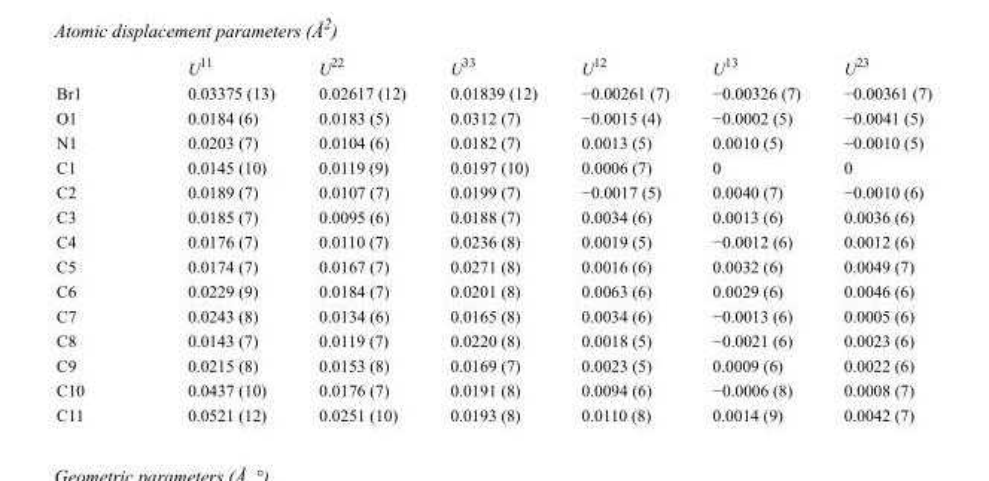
<table><thead><tr><td></td><td>U<sup>11</sup></td><td>U<sup>22</sup></td><td>U<sup>33</sup></td><td>U<sup>12</sup></td><td>U<sup>13</sup></td><td>U<sup>23</sup></td></tr></thead><tbody><tr><td>Br1</td><td>0.03375 (13)</td><td>0.02617 (12)</td><td>0.01839 (12)</td><td>−0.00261 (7)</td><td>−0.00326 (7)</td><td>−0.00361 (7)</td></tr><tr><td>O1</td><td>0.0184 (6)</td><td>0.0183 (5)</td><td>0.0312 (7)</td><td>−0.0015 (4)</td><td>−0.0002 (5)</td><td>−0.0041 (5)</td></tr><tr><td>N1</td><td>0.0203 (7)</td><td>0.0104 (6)</td><td>0.0182 (7)</td><td>0.0013 (5)</td><td>0.0010 (5)</td><td>−0.0010 (5)</td></tr><tr><td>C1</td><td>0.0145 (10)</td><td>0.0119 (9)</td><td>0.0197 (10)</td><td>0.0006 (7)</td><td>0</td><td>0</td></tr><tr><td>C2</td><td>0.0189 (7)</td><td>0.0107 (7)</td><td>0.0199 (7)</td><td>−0.0017 (5)</td><td>0.0040 (7)</td><td>−0.0010 (6)</td></tr><tr><td>C3</td><td>0.0185 (7)</td><td>0.0095 (6)</td><td>0.0188 (7)</td><td>0.0034 (6)</td><td>0.0013 (6)</td><td>0.0036 (6)</td></tr><tr><td>C4</td><td>0.0176 (7)</td><td>0.0110 (7)</td><td>0.0236 (8)</td><td>0.0019 (5)</td><td>−0.0012 (6)</td><td>0.0012 (6)</td></tr><tr><td>C5</td><td>0.0174 (7)</td><td>0.0167 (7)</td><td>0.0271 (8)</td><td>0.0016 (6)</td><td>0.0032 (6)</td><td>0.0049 (7)</td></tr><tr><td>C6</td><td>0.0229 (9)</td><td>0.0184 (7)</td><td>0.0201 (8)</td><td>0.0063 (6)</td><td>0.0029 (6)</td><td>0.0046 (6)</td></tr><tr><td>C7</td><td>0.0243 (8)</td><td>0.0134 (6)</td><td>0.0165 (8)</td><td>0.0034 (6)</td><td>−0.0013 (6)</td><td>0.0005 (6)</td></tr><tr><td>C8</td><td>0.0143 (7)</td><td>0.0119 (7)</td><td>0.0220 (8)</td><td>0.0018 (5)</td><td>−0.0021 (6)</td><td>0.0023 (6)</td></tr><tr><td>C9</td><td>0.0215 (8)</td><td>0.0153 (8)</td><td>0.0169 (7)</td><td>0.0023 (5)</td><td>0.0009 (6)</td><td>0.0022 (6)</td></tr><tr><td>C10</td><td>0.0437 (10)</td><td>0.0176 (7)</td><td>0.0191 (8)</td><td>0.0094 (6)</td><td>−0.0006 (8)</td><td>0.0008 (7)</td></tr><tr><td>C11</td><td>0.0521 (12)</td><td>0.0251 (10)</td><td>0.0193 (8)</td><td>0.0110 (8)</td><td>0.0014 (9)</td><td>0.0042 (7)</td></tr></tbody></table>